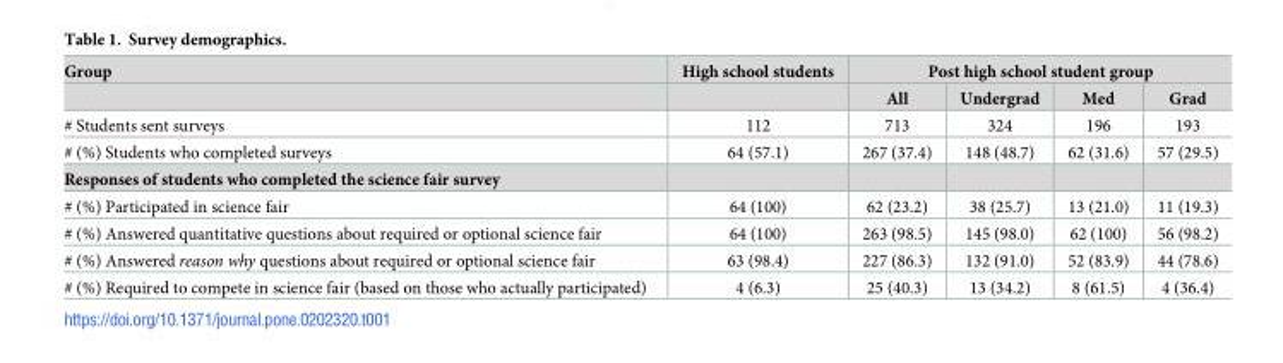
<table><thead><tr><td rowspan="2">Group</td><td rowspan="2">High school students</td><td colspan="4">Post high school student group</td></tr><tr><td>All</td><td>Undergrad</td><td>Med</td><td>Grad</td></tr></thead><tbody><tr><td># Students sent surveys</td><td>112</td><td>713</td><td>324</td><td>196</td><td>193</td></tr><tr><td># (%) Students who completed surveys</td><td>64 (57.1)</td><td>267 (37.4)</td><td>148 (48.7)</td><td>62 (31.6)</td><td>57 (29.5)</td></tr><tr><td colspan="6">Responses of students who completed the science fair survey</td></tr><tr><td># (%) Participated in science fair</td><td>64 (100)</td><td>62 (23.2)</td><td>38 (25.7)</td><td>13 (21.0)</td><td>11 (19.3)</td></tr><tr><td># (%) Answered quantitative questions about required or optional science fair</td><td>64 (100)</td><td>263 (98.5)</td><td>145 (98.0)</td><td>62 (100)</td><td>56 (98.2)</td></tr><tr><td># (%) Answered reason why questions about required or optional science fair</td><td>63 (98.4)</td><td>227 (86.3)</td><td>132 (91.0)</td><td>52 (83.9)</td><td>44 (78.6)</td></tr><tr><td># (%) Required to compete in science fair (based on those who actually participated)</td><td>4 (6.3)</td><td>25 (40.3)</td><td>13 (34.2)</td><td>8 (61.5)</td><td>4 (36.4)</td></tr></tbody></table>